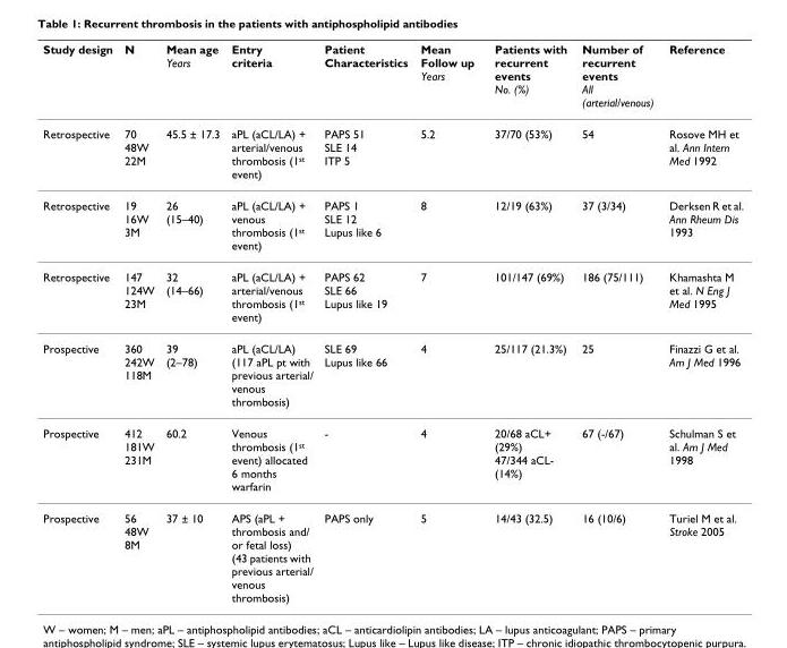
<table><thead><tr><td>Study design</td><td>N</td><td>Mean age Years</td><td>Entry criteria</td><td>Patient Characteristics</td><td>Mean Follow up Years</td><td>Patients with recurrent events No. (%)</td><td>Number of recurrent events All (arterial/venous)</td><td>Reference</td></tr></thead><tbody><tr><td>Retrospective</td><td>70 48W 22M</td><td>45.5 ± 17.3</td><td>aPL (aCL/LA) + arterial/venous thrombosis (1<sup>st</sup> event)</td><td>PAPS 51 SLE 14 ITP 5</td><td>5.2</td><td>37/70 (53%)</td><td>54</td><td>Rosove MH et al. Ann Intern Med 1992</td></tr><tr><td>Retrospective</td><td>19 16W 3M</td><td>26 (15–40)</td><td>aPL (aCL/LA) + venous thrombosis (1<sup>st</sup> event)</td><td>PAPS 1 SLE 12 Lupus like 6</td><td>8</td><td>12/19 (63%)</td><td>37 (3/34)</td><td>Derksen R et al. Ann Rheum Dis 1993</td></tr><tr><td>Retrospective</td><td>147 124W 23M</td><td>32 (14–66)</td><td>aPL (aCL/LA) + arterial/venous thrombosis (1<sup>st</sup> event)</td><td>PAPS 62 SLE 66 Lupus like 19</td><td>7</td><td>101/147 (69%)</td><td>186 (75/111)</td><td>Khamashta M et al. N Eng J Med 1995</td></tr><tr><td>Prospective</td><td>360 242W 118M</td><td>39 (2–78)</td><td>aPL (aCL/LA) (117 aPL pt with previous arterial/ venous thrombosis)</td><td>SLE 69 Lupus like 66</td><td>4</td><td>25/117 (21.3%)</td><td>25</td><td>Finazzi G et al. Am J Med 1996</td></tr><tr><td>Prospective</td><td>412 181W 231M</td><td>60.2</td><td>Venous thrombosis (1<sup>st</sup> event) allocated 6 months warfarin</td><td>-</td><td>4</td><td>20/68 aCL+ (29%) 47/344 aCL- (14%)</td><td>67 (-/67)</td><td>Schulman S et al. Am J Med 1998</td></tr><tr><td>Prospective</td><td>56 48W 8M</td><td>37 ± 10</td><td>APS (aPL + thrombosis and/ or fetal loss) (43 patients with previous arterial/ venous thrombosis)</td><td>PAPS only</td><td>5</td><td>14/43 (32.5)</td><td>16 (10/6)</td><td>Turiel M et al. Stroke 2005</td></tr></tbody></table>